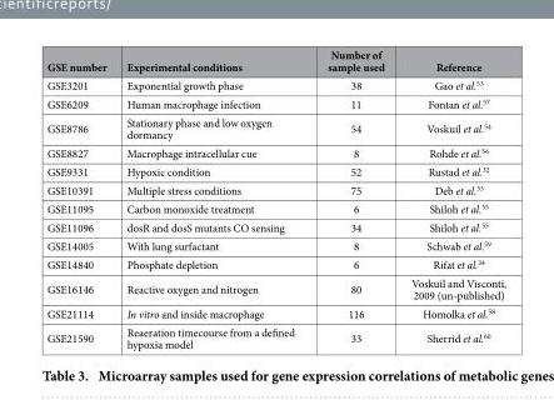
<table><thead><tr><td>GSE number</td><td>Experimental conditions</td><td>Number of sample used</td><td>Reference</td></tr></thead><tbody><tr><td>GSE3201</td><td>Exponential growth phase</td><td>38</td><td>Gao et al.<sup>53</sup></td></tr><tr><td>GSE6209</td><td>Human macrophage infection</td><td>11</td><td>Fontan et al.<sup>57</sup></td></tr><tr><td>GSE8786</td><td>Stationary phase and low oxygen dormancy</td><td>54</td><td>Voskuil et al.<sup>54</sup></td></tr><tr><td>GSE8827</td><td>Macrophage intracellular cue</td><td>8</td><td>Rohde et al.<sup>56</sup></td></tr><tr><td>GSE9331</td><td>Hypoxic condition</td><td>52</td><td>Rustad et al.<sup>32</sup></td></tr><tr><td>GSE10391</td><td>Multiple stress conditions</td><td>75</td><td>Deb et al.<sup>33</sup></td></tr><tr><td>GSE11095</td><td>Carbon monoxide treatment</td><td>6</td><td>Shiloh et al.<sup>55</sup></td></tr><tr><td>GSE11096</td><td>dosR and dosS mutants CO sensing</td><td>34</td><td>Shiloh et al.<sup>55</sup></td></tr><tr><td>GSE14005</td><td>With lung surfactant</td><td>8</td><td>Schwab et al.<sup>59</sup></td></tr><tr><td>GSE14840</td><td>Phosphate depletion</td><td>6</td><td>Rifat et al.<sup>34</sup></td></tr><tr><td>GSE16146</td><td>Reactive oxygen and nitrogen</td><td>80</td><td>Voskuil and Visconti, 2009 (un-published)</td></tr><tr><td>GSE21114</td><td>In vitro and inside macrophage</td><td>116</td><td>Homolka et al.<sup>58</sup></td></tr><tr><td>GSE21590</td><td>Reaeration timecourse from a defined hypoxia model</td><td>33</td><td>Sherrid et al.<sup>60</sup></td></tr></tbody></table>